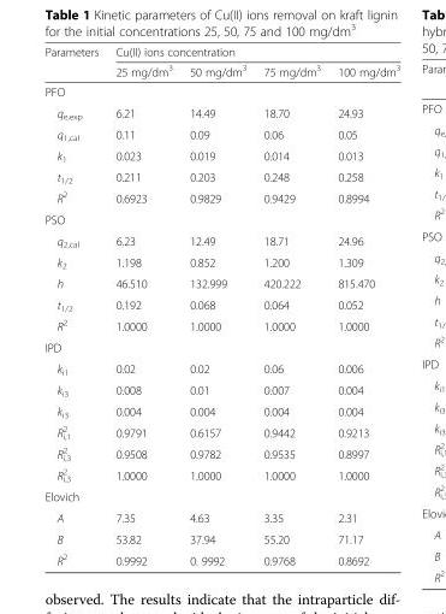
<table><thead><tr><td rowspan="2">Parameters</td><td colspan="4">Cu(II) ions concentration</td></tr><tr><td>25 mg/dm<sup>3</sup></td><td>50 mg/dm<sup>3</sup></td><td>75 mg/dm<sup>3</sup></td><td>100 mg/dm<sup>3</sup></td></tr></thead><tbody><tr><td colspan="5">PFO</td></tr><tr><td>q<sub>e,exp</sub></td><td>6.21</td><td>14.49</td><td>18.70</td><td>24.93</td></tr><tr><td>q<sub>1,cal</sub></td><td>0.11</td><td>0.09</td><td>0.06</td><td>0.05</td></tr><tr><td>k<sub>1</sub></td><td>0.023</td><td>0.019</td><td>0.014</td><td>0.013</td></tr><tr><td>t<sub>1/2</sub></td><td>0.211</td><td>0.203</td><td>0.248</td><td>0.258</td></tr><tr><td>R<sup>2</sup></td><td>0.6923</td><td>0.9829</td><td>0.9429</td><td>0.8994</td></tr><tr><td colspan="5">PSO</td></tr><tr><td>q<sub>2,cal</sub></td><td>6.23</td><td>12.49</td><td>18.71</td><td>24.96</td></tr><tr><td>k<sub>2</sub></td><td>1.198</td><td>0.852</td><td>1.200</td><td>1.309</td></tr><tr><td>h</td><td>46.510</td><td>132.999</td><td>420.222</td><td>815.470</td></tr><tr><td>t<sub>1/2</sub></td><td>0.192</td><td>0.068</td><td>0.064</td><td>0.052</td></tr><tr><td>R<sup>2</sup></td><td>1.0000</td><td>1.0000</td><td>1.0000</td><td>1.0000</td></tr><tr><td colspan="5">IPD</td></tr><tr><td>k<sub>i1</sub></td><td>0.02</td><td>0.02</td><td>0.06</td><td>0.006</td></tr><tr><td>k<sub>i3</sub></td><td>0.008</td><td>0.01</td><td>0.007</td><td>0.004</td></tr><tr><td>k<sub>i3</sub></td><td>0.004</td><td>0.004</td><td>0.004</td><td>0.004</td></tr><tr><td>R<sub>i,1</sub> <sup>2</sup></td><td>0.9791</td><td>0.6157</td><td>0.9442</td><td>0.9213</td></tr><tr><td>R<sub>i,3</sub> <sup>2</sup></td><td>0.9508</td><td>0.9782</td><td>0.9535</td><td>0.8997</td></tr><tr><td>R<sub>i,3</sub> <sup>2</sup></td><td>1.0000</td><td>1.0000</td><td>1.0000</td><td>1.0000</td></tr><tr><td colspan="5">Elovich</td></tr><tr><td>A</td><td>7.35</td><td>4.63</td><td>3.35</td><td>2.31</td></tr><tr><td>B</td><td>53.82</td><td>37.94</td><td>55.20</td><td>71.17</td></tr><tr><td>R<sup>2</sup></td><td>0.9992</td><td>0. 9992</td><td>0.9768</td><td>0.8692</td></tr></tbody></table>